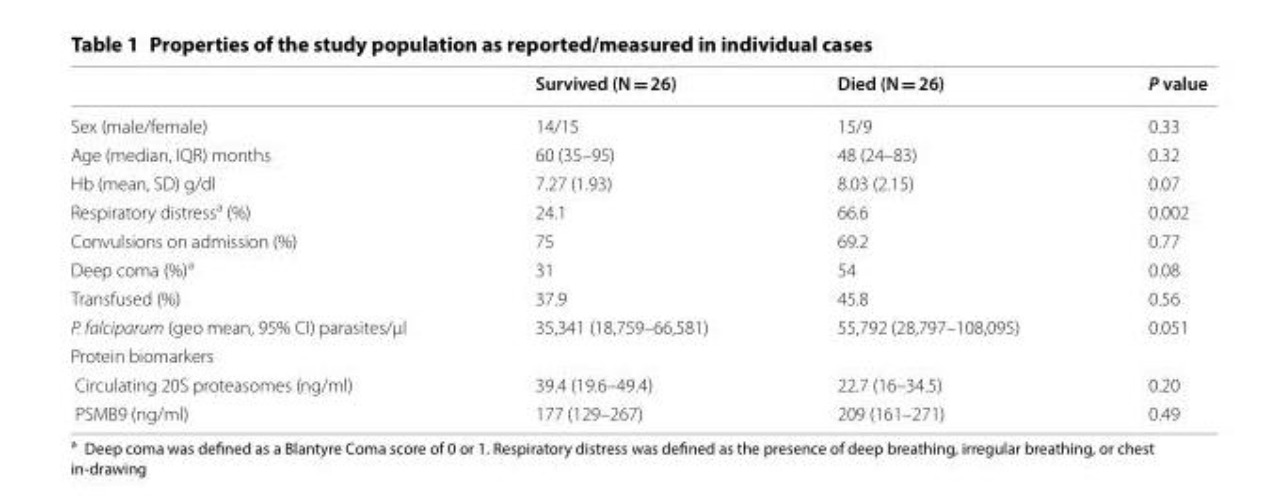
<table><thead><tr><td></td><td>Survived (N = 26)</td><td>Died (N = 26)</td><td>P value</td></tr></thead><tbody><tr><td>Sex (male/female)</td><td>14/15</td><td>15/9</td><td>0.33</td></tr><tr><td>Age (median, IQR) months</td><td>60 (35–95)</td><td>48 (24–83)</td><td>0.32</td></tr><tr><td>Hb (mean, SD) g/dl</td><td>7.27 (1.93)</td><td>8.03 (2.15)</td><td>0.07</td></tr><tr><td>Respiratory distress<sup>a</sup> (%)</td><td>24.1</td><td>66.6</td><td>0.002</td></tr><tr><td>Convulsions on admission (%)</td><td>75</td><td>69.2</td><td>0.77</td></tr><tr><td>Deep coma (%)<sup>a</sup></td><td>31</td><td>54</td><td>0.08</td></tr><tr><td>Transfused (%)</td><td>37.9</td><td>45.8</td><td>0.56</td></tr><tr><td>P. falciparum (geo mean, 95% CI) parasites/µl</td><td>35,341 (18,759–66,581)</td><td>55,792 (28,797–108,095)</td><td>0.051</td></tr><tr><td colspan="4">Protein biomarkers</td></tr><tr><td>Circulating 20S proteasomes (ng/ml)</td><td>39.4 (19.6–49.4)</td><td>22.7 (16–34.5)</td><td>0.20</td></tr><tr><td>PSMB9 (ng/ml)</td><td>177 (129–267)</td><td>209 (161–271)</td><td>0.49</td></tr></tbody></table>